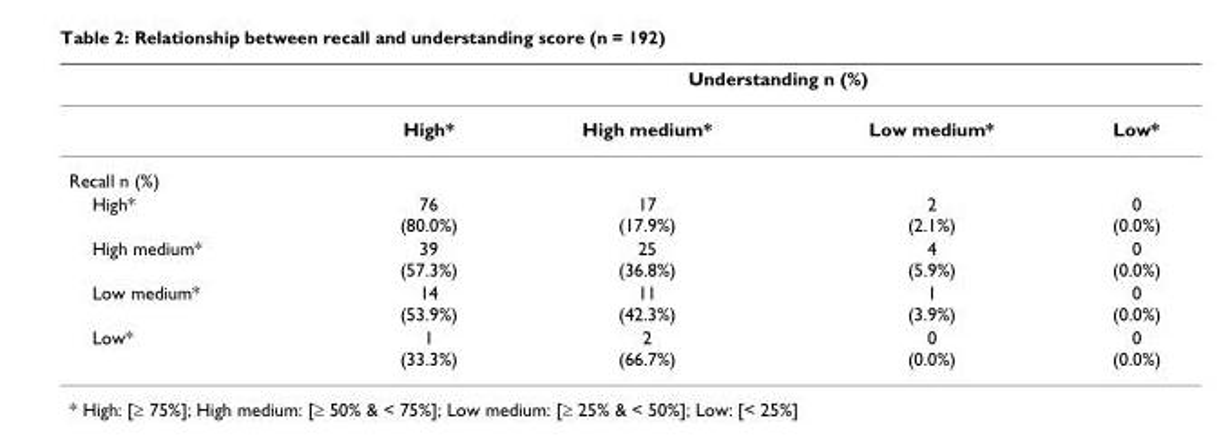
<table><thead><tr><td rowspan="2"></td><td colspan="4">Understanding n (%)</td></tr><tr><td>High*</td><td>High medium*</td><td>Low medium*</td><td>Low*</td></tr></thead><tbody><tr><td colspan="5">Recall n (%)</td></tr><tr><td>High*</td><td>76 (80.0%)</td><td>17 (17.9%)</td><td>2 (2.1%)</td><td>0 (0.0%)</td></tr><tr><td>High medium*</td><td>39 (57.3%)</td><td>25 (36.8%)</td><td>4 (5.9%)</td><td>0 (0.0%)</td></tr><tr><td>Low medium*</td><td>14 (53.9%)</td><td>11 (42.3%)</td><td>1 (3.9%)</td><td>0 (0.0%)</td></tr><tr><td>Low*</td><td>1 (33.3%)</td><td>2 (66.7%)</td><td>0 (0.0%)</td><td>0 (0.0%)</td></tr></tbody></table>